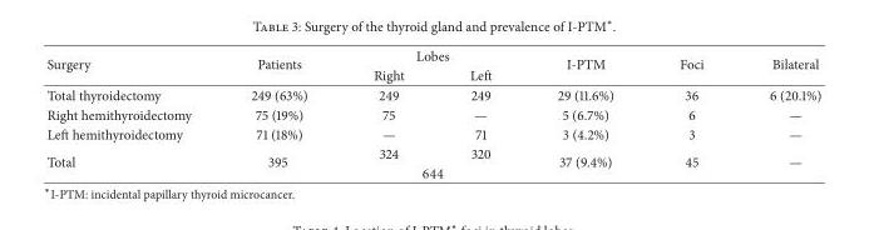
<table><thead><tr><td rowspan="2">Surgery</td><td rowspan="2">Patients</td><td colspan="2">Lobes</td><td rowspan="2">I-PTM</td><td rowspan="2">Foci</td><td rowspan="2">Bilateral</td></tr><tr><td>Right</td><td>Left</td></tr></thead><tbody><tr><td>Total thyroidectomy</td><td>249 (63%)</td><td>249</td><td>249</td><td>29 (11.6%)</td><td>36</td><td>6 (20.1%)</td></tr><tr><td>Right hemithyroidectomy</td><td>75 (19%)</td><td>75</td><td>—</td><td>5 (6.7%)</td><td>6</td><td>—</td></tr><tr><td>Left hemithyroidectomy</td><td>71 (18%)</td><td>—</td><td>71</td><td>3 (4.2%)</td><td>3</td><td>—</td></tr><tr><td rowspan="2">Total</td><td rowspan="2">395</td><td>324</td><td>320</td><td rowspan="2">37 (9.4%)</td><td rowspan="2">45</td><td rowspan="2">—</td></tr><tr><td colspan="2">644</td></tr></tbody></table>